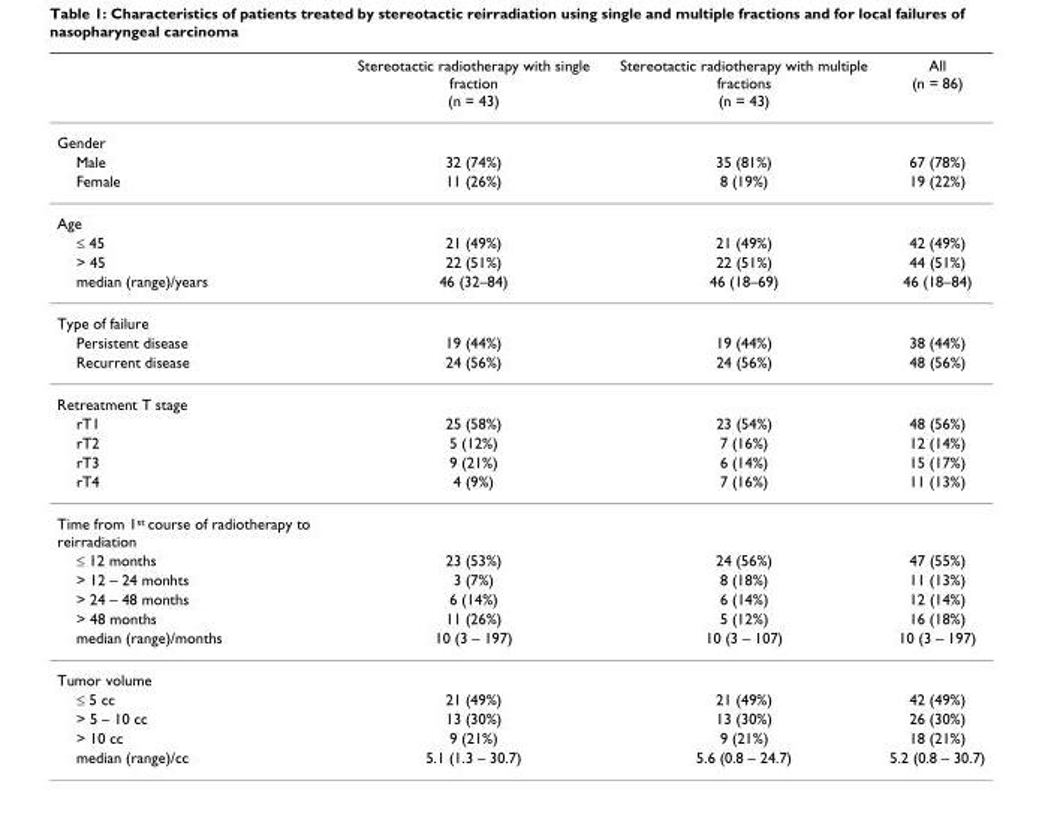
<table><thead><tr><td></td><td>Stereotactic radiotherapy with single fraction (n = 43)</td><td>Stereotactic radiotherapy with multiple fractions (n = 43)</td><td>All (n = 86)</td></tr></thead><tbody><tr><td colspan="4">Gender</td></tr><tr><td>Male</td><td>32 (74%)</td><td>35 (81%)</td><td>67 (78%)</td></tr><tr><td>Female</td><td>11 (26%)</td><td>8 (19%)</td><td>19 (22%)</td></tr><tr><td colspan="4">Age</td></tr><tr><td>≤ 45</td><td>21 (49%)</td><td>21 (49%)</td><td>42 (49%)</td></tr><tr><td>&gt; 45</td><td>22 (51%)</td><td>22 (51%)</td><td>44 (51%)</td></tr><tr><td>median (range)/years</td><td>46 (32–84)</td><td>46 (18–69)</td><td>46 (18–84)</td></tr><tr><td colspan="4">Type of failure</td></tr><tr><td>Persistent disease</td><td>19 (44%)</td><td>19 (44%)</td><td>38 (44%)</td></tr><tr><td>Recurrent disease</td><td>24 (56%)</td><td>24 (56%)</td><td>48 (56%)</td></tr><tr><td colspan="4">Retreatment T stage</td></tr><tr><td>rT1</td><td>25 (58%)</td><td>23 (54%)</td><td>48 (56%)</td></tr><tr><td>rT2</td><td>5 (12%)</td><td>7 (16%)</td><td>12 (14%)</td></tr><tr><td>rT3</td><td>9 (21%)</td><td>6 (14%)</td><td>15 (17%)</td></tr><tr><td>rT4</td><td>4 (9%)</td><td>7 (16%)</td><td>11 (13%)</td></tr><tr><td colspan="4">Time from 1<sup>st</sup> course of radiotherapy to reirradiation</td></tr><tr><td>≤ 12 months</td><td>23 (53%)</td><td>24 (56%)</td><td>47 (55%)</td></tr><tr><td>&gt; 12 – 24 monhts</td><td>3 (7%)</td><td>8 (18%)</td><td>11 (13%)</td></tr><tr><td>&gt; 24 – 48 months</td><td>6 (14%)</td><td>6 (14%)</td><td>12 (14%)</td></tr><tr><td>&gt; 48 months</td><td>11 (26%)</td><td>5 (12%)</td><td>16 (18%)</td></tr><tr><td>median (range)/months</td><td>10 (3 – 197)</td><td>10 (3 – 107)</td><td>10 (3 – 197)</td></tr><tr><td colspan="4">Tumor volume</td></tr><tr><td>≤ 5 cc</td><td>21 (49%)</td><td>21 (49%)</td><td>42 (49%)</td></tr><tr><td>&gt; 5 – 10 cc</td><td>13 (30%)</td><td>13 (30%)</td><td>26 (30%)</td></tr><tr><td>&gt; 10 cc</td><td>9 (21%)</td><td>9 (21%)</td><td>18 (21%)</td></tr><tr><td>median (range)/cc</td><td>5.1 (1.3 – 30.7)</td><td>5.6 (0.8 – 24.7)</td><td>5.2 (0.8 – 30.7)</td></tr></tbody></table>